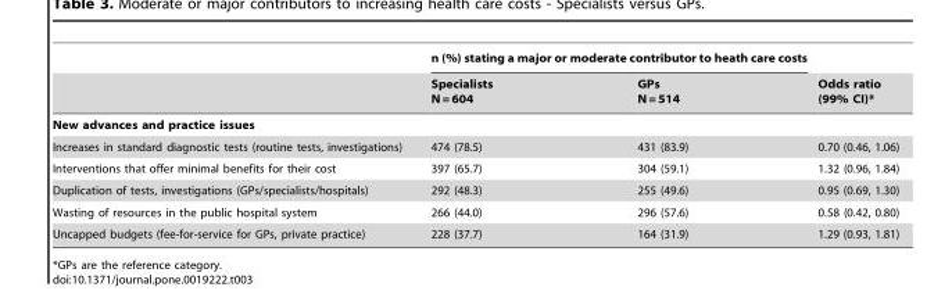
<table><thead><tr><td rowspan="2"></td><td colspan="2">n (%) stating a major or moderate contributor to heath care costs</td><td rowspan="2">Odds ratio (99% CI)*</td></tr><tr><td>Specialists N = 604</td><td>GPs N = 514</td></tr></thead><tbody><tr><td colspan="4">New advances and practice issues</td></tr><tr><td>Increases in standard diagnostic tests (routine tests, investigations)</td><td>474 (78.5)</td><td>431 (83.9)</td><td>0.70 (0.46, 1.06)</td></tr><tr><td>Interventions that offer minimal benefits for their cost</td><td>397 (65.7)</td><td>304 (59.1)</td><td>1.32 (0.96, 1.84)</td></tr><tr><td>Duplication of tests, investigations (GPs/specialists/hospitals)</td><td>292 (48.3)</td><td>255 (49.6)</td><td>0.95 (0.69, 1.30)</td></tr><tr><td>Wasting of resources in the public hospital system</td><td>266 (44.0)</td><td>296 (57.6)</td><td>0.58 (0.42, 0.80)</td></tr><tr><td>Uncapped budgets (fee-for-service for GPs, private practice)</td><td>228 (37.7)</td><td>164 (31.9)</td><td>1.29 (0.93, 1.81)</td></tr></tbody></table>